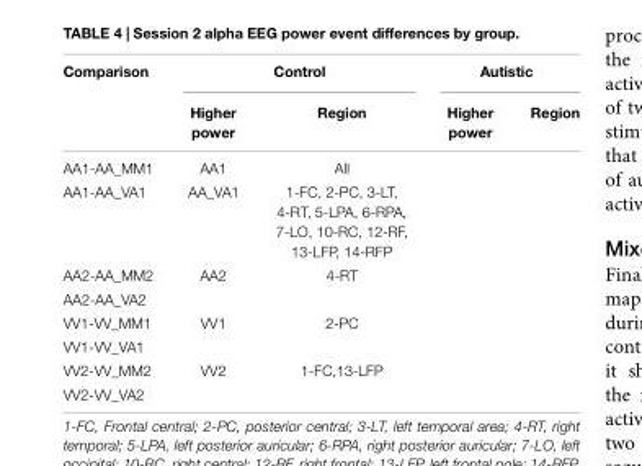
<table><thead><tr><td rowspan="2">Comparison</td><td colspan="2">Control</td><td colspan="2">Autistic</td></tr><tr><td>Higher power</td><td>Region</td><td>Higher power</td><td>Region</td></tr></thead><tbody><tr><td>AA1-AA_MM1</td><td>AA1</td><td>All</td><td></td><td></td></tr><tr><td>AA1-AA_VA1</td><td>AA_VA1</td><td>1-FC, 2-PC, 3-LT, 4-RT, 5-LPA, 6-RPA, 7-LO, 10-RC, 12-RF, 13-LFP, 14-RFP</td><td></td><td></td></tr><tr><td>AA2-AA_MM2</td><td>AA2</td><td>4-RT</td><td></td><td></td></tr><tr><td colspan="5">AA2-AA_VA2</td></tr><tr><td>VV1-VV_MM1</td><td>VV1</td><td>2-PC</td><td></td><td></td></tr><tr><td colspan="5">VV1-VV_VA1</td></tr><tr><td>VV2-VV_MM2</td><td>VV2</td><td>1-FC,13-LFP</td><td></td><td></td></tr><tr><td>VV2-VV_VA2</td><td></td><td></td><td></td><td></td></tr></tbody></table>